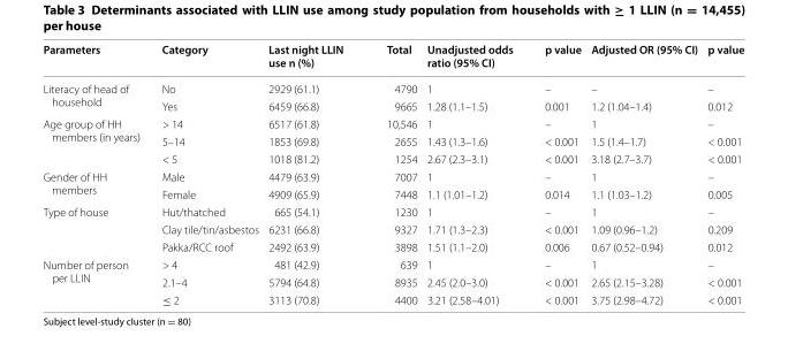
<table><thead><tr><td>Parameters</td><td>Category</td><td>Last night LLIN use n (%)</td><td>Total</td><td>Unadjusted odds ratio (95% CI)</td><td>p value</td><td>Adjusted OR (95% CI)</td><td>p value</td></tr></thead><tbody><tr><td rowspan="2">Literacy of head of household</td><td>No</td><td>2929 (61.1)</td><td>4790</td><td>1</td><td>–</td><td>–</td><td>–</td></tr><tr><td>Yes</td><td>6459 (66.8)</td><td>9665</td><td>1.28 (1.1–1.5)</td><td>0.001</td><td>1.2 (1.04–1.4)</td><td>0.012</td></tr><tr><td rowspan="3">Age group of HH members (in years)</td><td>&gt; 14</td><td>6517 (61.8)</td><td>10,546</td><td>1</td><td>–</td><td>1</td><td>–</td></tr><tr><td>5–14</td><td>1853 (69.8)</td><td>2655</td><td>1.43 (1.3–1.6)</td><td>&lt; 0.001</td><td>1.5 (1.4–1.7)</td><td>&lt; 0.001</td></tr><tr><td>&lt; 5</td><td>1018 (81.2)</td><td>1254</td><td>2.67 (2.3–3.1)</td><td>&lt; 0.001</td><td>3.18 (2.7–3.7)</td><td>&lt; 0.001</td></tr><tr><td rowspan="2">Gender of HH members</td><td>Male</td><td>4479 (63.9)</td><td>7007</td><td>1</td><td>–</td><td>1</td><td>–</td></tr><tr><td>Female</td><td>4909 (65.9)</td><td>7448</td><td>1.1 (1.01–1.2)</td><td>0.014</td><td>1.1 (1.03–1.2)</td><td>0.005</td></tr><tr><td rowspan="3">Type of house</td><td>Hut/thatched</td><td>665 (54.1)</td><td>1230</td><td>1</td><td>–</td><td>1</td><td>–</td></tr><tr><td>Clay tile/tin/asbestos</td><td>6231 (66.8)</td><td>9327</td><td>1.71 (1.3–2.3)</td><td>&lt; 0.001</td><td>1.09 (0.96–1.2)</td><td>0.209</td></tr><tr><td>Pakka/RCC roof</td><td>2492 (63.9)</td><td>3898</td><td>1.51 (1.1–2.0)</td><td>0.006</td><td>0.67 (0.52–0.94)</td><td>0.012</td></tr><tr><td rowspan="3">Number of person per LLIN</td><td>&gt; 4</td><td>481 (42.9)</td><td>639</td><td>1</td><td>–</td><td>1</td><td>–</td></tr><tr><td>2.1–4</td><td>5794 (64.8)</td><td>8935</td><td>2.45 (2.0–3.0)</td><td>&lt; 0.001</td><td>2.65 (2.15–3.28)</td><td>&lt; 0.001</td></tr><tr><td>≤ 2</td><td>3113 (70.8)</td><td>4400</td><td>3.21 (2.58–4.01)</td><td>&lt; 0.001</td><td>3.75 (2.98–4.72)</td><td>&lt; 0.001</td></tr></tbody></table>